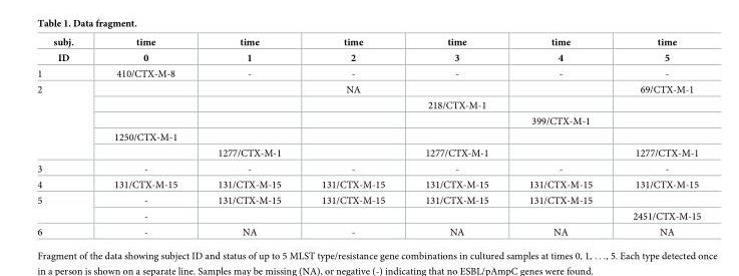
<table><thead><tr><td rowspan="2">subj. ID</td><td rowspan="2">time 0</td><td rowspan="2">time 1</td><td rowspan="2">time 2</td><td rowspan="2">time 3</td><td rowspan="2">time 4</td><td rowspan="2">time 5</td></tr><tr></tr></thead><tbody><tr><td>1</td><td>410/CTX-M-8</td><td>-</td><td>-</td><td>-</td><td>-</td><td>-</td></tr><tr><td rowspan="5">2</td><td></td><td></td><td>NA</td><td></td><td></td><td>69/CTX-M-1</td></tr><tr><td></td><td></td><td></td><td>218/CTX-M-1</td><td></td><td></td></tr><tr><td></td><td></td><td></td><td></td><td>399/CTX-M-1</td><td></td></tr><tr><td>1250/CTX-M-1</td><td></td><td></td><td></td><td></td><td></td></tr><tr><td></td><td>1277/CTX-M-1</td><td></td><td>1277/CTX-M-1</td><td></td><td>1277/CTX-M-1</td></tr><tr><td>3</td><td>-</td><td>-</td><td>-</td><td>-</td><td>-</td><td>-</td></tr><tr><td>4</td><td>131/CTX-M-15</td><td>131/CTX-M-15</td><td>131/CTX-M-15</td><td>131/CTX-M-15</td><td>131/CTX-M-15</td><td>131/CTX-M-15</td></tr><tr><td rowspan="2">5</td><td>-</td><td>131/CTX-M-15</td><td>131/CTX-M-15</td><td>131/CTX-M-15</td><td>131/CTX-M-15</td><td></td></tr><tr><td>-</td><td></td><td></td><td></td><td></td><td>2451/CTX-M-15</td></tr><tr><td>6</td><td>-</td><td>NA</td><td>-</td><td>NA</td><td>NA</td><td>NA</td></tr></tbody></table>